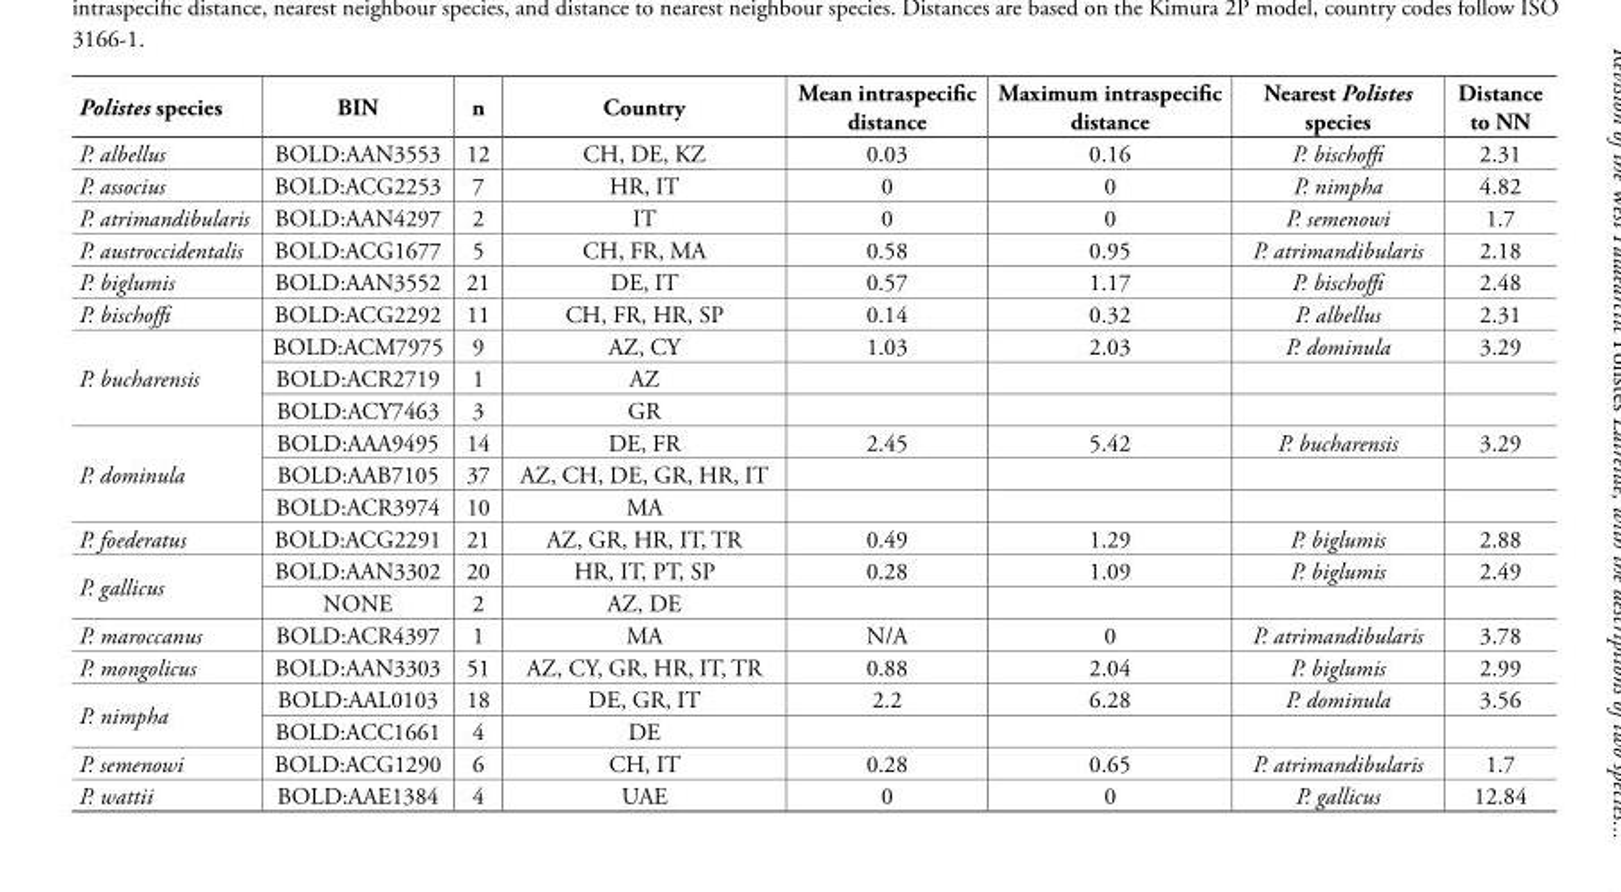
<table><thead><tr><td>Polistes species</td><td>BIN</td><td>n</td><td>Country</td><td>Mean intraspecific distance</td><td>Maximum intraspecific distance</td><td>Nearest Polistes species</td><td>Distance to NN</td></tr></thead><tbody><tr><td>P. albellus</td><td>BOLD:AAN3553</td><td>12</td><td>CH, DE, KZ</td><td>0.03</td><td>0.16</td><td>P. bischoffi</td><td>2.31</td></tr><tr><td>P. associus</td><td>BOLD:ACG2253</td><td>7</td><td>HR, IT</td><td>0</td><td>0</td><td>P. nimpha</td><td>4.82</td></tr><tr><td>P. atrimandibularis</td><td>BOLD:AAN4297</td><td>2</td><td>IT</td><td>0</td><td>0</td><td>P. semenowi</td><td>1.7</td></tr><tr><td>P. austroccidentalis</td><td>BOLD:ACG1677</td><td>5</td><td>CH, FR, MA</td><td>0.58</td><td>0.95</td><td>P. atrimandibularis</td><td>2.18</td></tr><tr><td>P. biglumis</td><td>BOLD:AAN3552</td><td>21</td><td>DE, IT</td><td>0.57</td><td>1.17</td><td>P. bischoffi</td><td>2.48</td></tr><tr><td>P. bischoffi</td><td>BOLD:ACG2292</td><td>11</td><td>CH, FR, HR, SP</td><td>0.14</td><td>0.32</td><td>P. albellus</td><td>2.31</td></tr><tr><td rowspan="3">P. bucharensis</td><td>BOLD:ACM7975</td><td>9</td><td>AZ, CY</td><td>1.03</td><td>2.03</td><td>P. dominula</td><td>3.29</td></tr><tr><td>BOLD:ACR2719</td><td>1</td><td>AZ</td><td></td><td></td><td></td><td></td></tr><tr><td>BOLD:ACY7463</td><td>3</td><td>GR</td><td></td><td></td><td></td><td></td></tr><tr><td rowspan="3">P. dominula</td><td>BOLD:AAA9495</td><td>14</td><td>DE, FR</td><td>2.45</td><td>5.42</td><td>P. bucharensis</td><td>3.29</td></tr><tr><td>BOLD:AAB7105</td><td>37</td><td>AZ, CH, DE, GR, HR, IT</td><td></td><td></td><td></td><td></td></tr><tr><td>BOLD:ACR3974</td><td>10</td><td>MA</td><td></td><td></td><td></td><td></td></tr><tr><td>P. foederatus</td><td>BOLD:ACG2291</td><td>21</td><td>AZ, GR, HR, IT, TR</td><td>0.49</td><td>1.29</td><td>P. biglumis</td><td>2.88</td></tr><tr><td rowspan="2">P. gallicus</td><td>BOLD:AAN3302</td><td>20</td><td>HR, IT, PT, SP</td><td>0.28</td><td>1.09</td><td>P. biglumis</td><td>2.49</td></tr><tr><td>NONE</td><td>2</td><td>AZ, DE</td><td></td><td></td><td></td><td></td></tr><tr><td>P. maroccanus</td><td>BOLD:ACR4397</td><td>1</td><td>MA</td><td>N/A</td><td>0</td><td>P. atrimandibularis</td><td>3.78</td></tr><tr><td>P. mongolicus</td><td>BOLD:AAN3303</td><td>51</td><td>AZ, CY, GR, HR, IT, TR</td><td>0.88</td><td>2.04</td><td>P. biglumis</td><td>2.99</td></tr><tr><td rowspan="2">P. nimpha</td><td>BOLD:AAL0103</td><td>18</td><td>DE, GR, IT</td><td>2.2</td><td>6.28</td><td>P. dominula</td><td>3.56</td></tr><tr><td>BOLD:ACC1661</td><td>4</td><td>DE</td><td></td><td></td><td></td><td></td></tr><tr><td>P. semenowi</td><td>BOLD:ACG1290</td><td>6</td><td>CH, IT</td><td>0.28</td><td>0.65</td><td>P. atrimandibularis</td><td>1.7</td></tr><tr><td>P. wattii</td><td>BOLD:AAE1384</td><td>4</td><td>UAE</td><td>0</td><td>0</td><td>P. gallicus</td><td>12.84</td></tr></tbody></table>